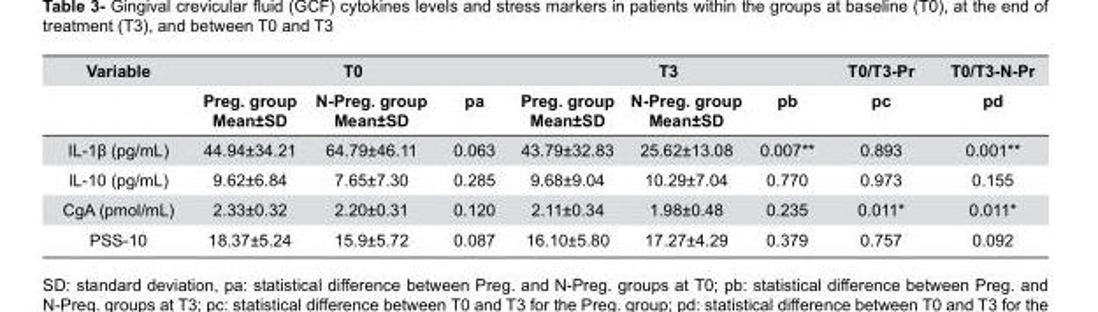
<table><thead><tr><td rowspan="2">Variable</td><td colspan="3">T0</td><td colspan="3">T3</td><td rowspan="2">T0/T3-Pr pc</td><td rowspan="2">T0/T3-N-Pr pd</td></tr><tr><td>Preg. group Mean±SD</td><td>N-Preg. group Mean±SD</td><td>pa</td><td>Preg. group Mean±SD</td><td>N-Preg. group Mean±SD</td><td>pb</td></tr></thead><tbody><tr><td>IL-1β (pg/mL)</td><td>44.94±34.21</td><td>64.79±46.11</td><td>0.063</td><td>43.79±32.83</td><td>25.62±13.08</td><td>0.007**</td><td>0.893</td><td>0.001**</td></tr><tr><td>IL-10 (pg/mL)</td><td>9.62±6.84</td><td>7.65±7.30</td><td>0.285</td><td>9.68±9.04</td><td>10.29±7.04</td><td>0.770</td><td>0.973</td><td>0.155</td></tr><tr><td>CgA (pmol/mL)</td><td>2.33±0.32</td><td>2.20±0.31</td><td>0.120</td><td>2.11±0.34</td><td>1.98±0.48</td><td>0.235</td><td>0.011*</td><td>0.011*</td></tr><tr><td>PSS-10</td><td>18.37±5.24</td><td>15.9±5.72</td><td>0.087</td><td>16.10±5.80</td><td>17.27±4.29</td><td>0.379</td><td>0.757</td><td>0.092</td></tr></tbody></table>